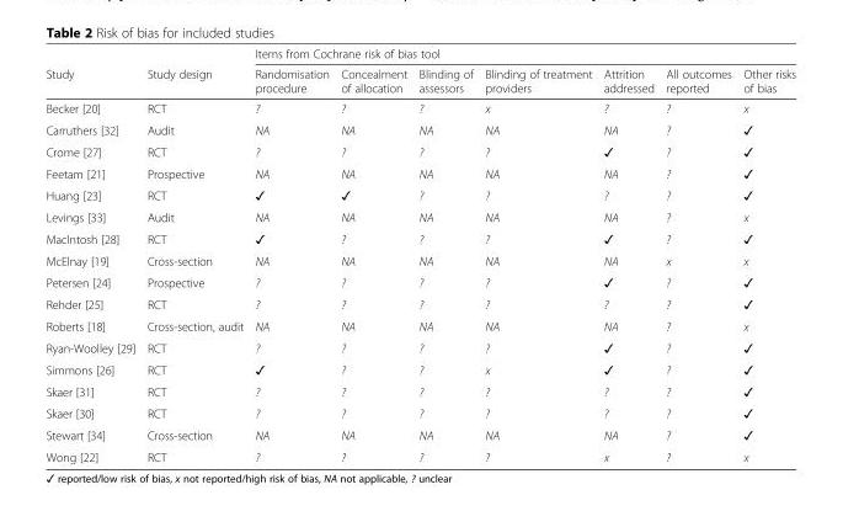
<table><thead><tr><td rowspan="2">Study</td><td rowspan="2">Study design</td><td colspan="7">Items from Cochrane risk of bias tool</td></tr><tr><td>Randomisation procedure</td><td>Concealment of allocation</td><td>Blinding of assessors</td><td>Blinding of treatment providers</td><td>Attrition addressed</td><td>All outcomes reported</td><td>Other risks of bias</td></tr></thead><tbody><tr><td>Becker [20]</td><td>RCT</td><td>?</td><td>?</td><td>?</td><td>x</td><td>?</td><td>?</td><td>x</td></tr><tr><td>Carruthers [32]</td><td>Audit</td><td>NA</td><td>NA</td><td>NA</td><td>NA</td><td>NA</td><td>?</td><td>✓</td></tr><tr><td>Crome [27]</td><td>RCT</td><td>?</td><td>?</td><td>?</td><td>?</td><td>✓</td><td>?</td><td>✓</td></tr><tr><td>Feetam [21]</td><td>Prospective</td><td>NA</td><td>NA</td><td>NA</td><td>NA</td><td>NA</td><td>?</td><td>✓</td></tr><tr><td>Huang [23]</td><td>RCT</td><td>✓</td><td>✓</td><td>?</td><td>?</td><td>?</td><td>?</td><td>✓</td></tr><tr><td>Levings [33]</td><td>Audit</td><td>NA</td><td>NA</td><td>NA</td><td>NA</td><td>NA</td><td>?</td><td>x</td></tr><tr><td>MacIntosh [28]</td><td>RCT</td><td>✓</td><td>?</td><td>?</td><td>?</td><td>✓</td><td>?</td><td>✓</td></tr><tr><td>McElnay [19]</td><td>Cross-section</td><td>NA</td><td>NA</td><td>NA</td><td>NA</td><td>NA</td><td>x</td><td>x</td></tr><tr><td>Petersen [24]</td><td>Prospective</td><td>?</td><td>?</td><td>?</td><td>?</td><td>✓</td><td>?</td><td>✓</td></tr><tr><td>Rehder [25]</td><td>RCT</td><td>?</td><td>?</td><td>?</td><td>?</td><td>?</td><td>?</td><td>✓</td></tr><tr><td>Roberts [18]</td><td>Cross-section, audit</td><td>NA</td><td>NA</td><td>NA</td><td>NA</td><td>NA</td><td>?</td><td>x</td></tr><tr><td>Ryan-Woolley [29]</td><td>RCT</td><td>?</td><td>?</td><td>?</td><td>?</td><td>✓</td><td>?</td><td>✓</td></tr><tr><td>Simmons [26]</td><td>RCT</td><td>✓</td><td>?</td><td>?</td><td>x</td><td>✓</td><td>?</td><td>✓</td></tr><tr><td>Skaer [31]</td><td>RCT</td><td>?</td><td>?</td><td>?</td><td>?</td><td>?</td><td>?</td><td>✓</td></tr><tr><td>Skaer [30]</td><td>RCT</td><td>?</td><td>?</td><td>?</td><td>?</td><td>?</td><td>?</td><td>✓</td></tr><tr><td>Stewart [34]</td><td>Cross-section</td><td>NA</td><td>NA</td><td>NA</td><td>NA</td><td>NA</td><td>?</td><td>✓</td></tr><tr><td>Wong [22]</td><td>RCT</td><td>?</td><td>?</td><td>?</td><td>?</td><td>x</td><td>?</td><td>x</td></tr></tbody></table>